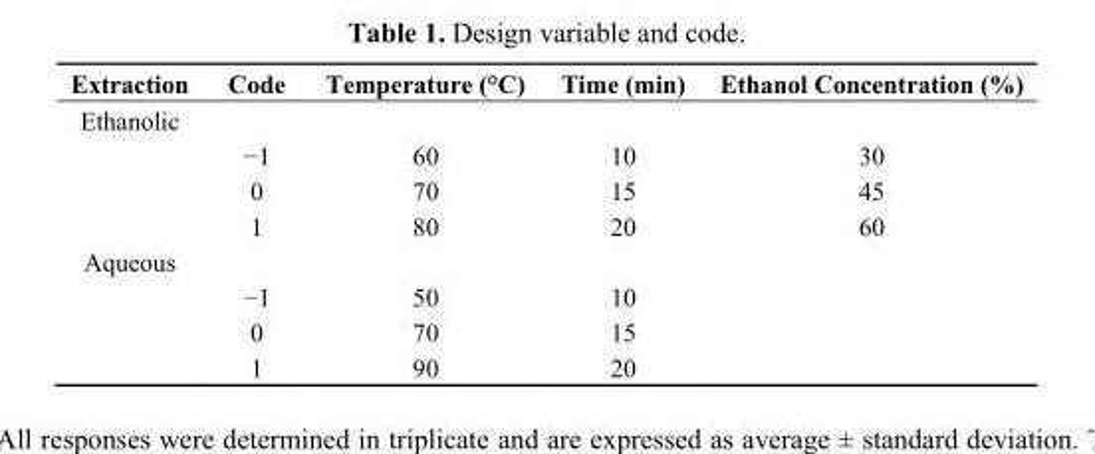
<table><thead><tr><td>Extraction</td><td>Code</td><td>Temperature (°C)</td><td>Time (min)</td><td>Ethanol Concentration (%)</td></tr></thead><tbody><tr><td colspan="5">Ethanolic</td></tr><tr><td></td><td>−1</td><td>60</td><td>10</td><td>30</td></tr><tr><td></td><td>0</td><td>70</td><td>15</td><td>45</td></tr><tr><td></td><td>1</td><td>80</td><td>20</td><td>60</td></tr><tr><td colspan="5">Aqueous</td></tr><tr><td></td><td>−1</td><td>50</td><td>10</td><td></td></tr><tr><td></td><td>0</td><td>70</td><td>15</td><td></td></tr><tr><td></td><td>1</td><td>90</td><td>20</td><td></td></tr></tbody></table>